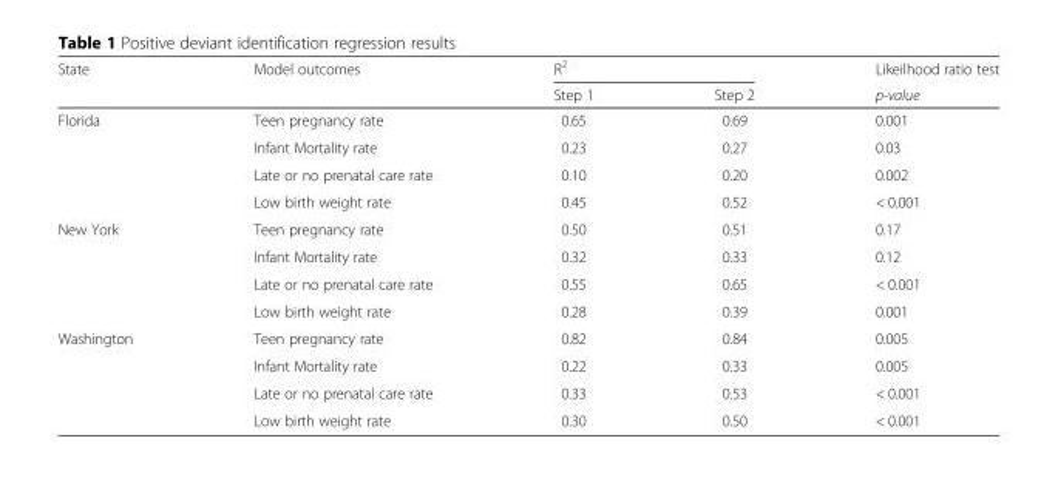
<table><thead><tr><td rowspan="2">State</td><td rowspan="2">Model outcomes</td><td colspan="2">R<sup>2</sup></td><td rowspan="2">Likeilhood ratio test p-value</td></tr><tr><td>Step 1</td><td>Step 2</td></tr></thead><tbody><tr><td rowspan="4">Florida</td><td>Teen pregnancy rate</td><td>0.65</td><td>0.69</td><td>0.001</td></tr><tr><td>Infant Mortality rate</td><td>0.23</td><td>0.27</td><td>0.03</td></tr><tr><td>Late or no prenatal care rate</td><td>0.10</td><td>0.20</td><td>0.002</td></tr><tr><td>Low birth weight rate</td><td>0.45</td><td>0.52</td><td>&lt; 0.001</td></tr><tr><td rowspan="4">New York</td><td>Teen pregnancy rate</td><td>0.50</td><td>0.51</td><td>0.17</td></tr><tr><td>Infant Mortality rate</td><td>0.32</td><td>0.33</td><td>0.12</td></tr><tr><td>Late or no prenatal care rate</td><td>0.55</td><td>0.65</td><td>&lt; 0.001</td></tr><tr><td>Low birth weight rate</td><td>0.28</td><td>0.39</td><td>0.001</td></tr><tr><td rowspan="4">Washington</td><td>Teen pregnancy rate</td><td>0.82</td><td>0.84</td><td>0.005</td></tr><tr><td>Infant Mortality rate</td><td>0.22</td><td>0.33</td><td>0.005</td></tr><tr><td>Late or no prenatal care rate</td><td>0.33</td><td>0.53</td><td>&lt; 0.001</td></tr><tr><td>Low birth weight rate</td><td>0.30</td><td>0.50</td><td>&lt; 0.001</td></tr></tbody></table>